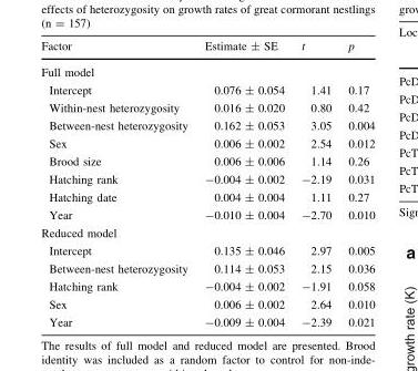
<table><thead><tr><td>Factor</td><td>Estimate ± SE</td><td>t</td><td>p</td></tr></thead><tbody><tr><td colspan="4">Full model</td></tr><tr><td>Intercept</td><td>0.076 ± 0.054</td><td>1.41</td><td>0.17</td></tr><tr><td>Within-nest heterozygosity</td><td>0.016 ± 0.020</td><td>0.80</td><td>0.42</td></tr><tr><td>Between-nest heterozygosity</td><td>0.162 ± 0.053</td><td>3.05</td><td>0.004</td></tr><tr><td>Sex</td><td>0.006 ± 0.002</td><td>2.54</td><td>0.012</td></tr><tr><td>Brood size</td><td>0.006 ± 0.006</td><td>1.14</td><td>0.26</td></tr><tr><td>Hatching rank</td><td>-0.004 ± 0.002</td><td>-2.19</td><td>0.031</td></tr><tr><td>Hatching date</td><td>0.004 ± 0.004</td><td>1.11</td><td>0.27</td></tr><tr><td>Year</td><td>-0.010 ± 0.004</td><td>-2.70</td><td>0.010</td></tr><tr><td colspan="4">Reduced model</td></tr><tr><td>Intercept</td><td>0.135 ± 0.046</td><td>2.97</td><td>0.005</td></tr><tr><td>Between-nest heterozygosity</td><td>0.114 ± 0.053</td><td>2.15</td><td>0.036</td></tr><tr><td>Hatching rank</td><td>-0.004 ± 0.002</td><td>-1.91</td><td>0.058</td></tr><tr><td>Sex</td><td>0.006 ± 0.002</td><td>2.64</td><td>0.010</td></tr><tr><td>Year</td><td>-0.009 ± 0.004</td><td>-2.39</td><td>0.021</td></tr></tbody></table>